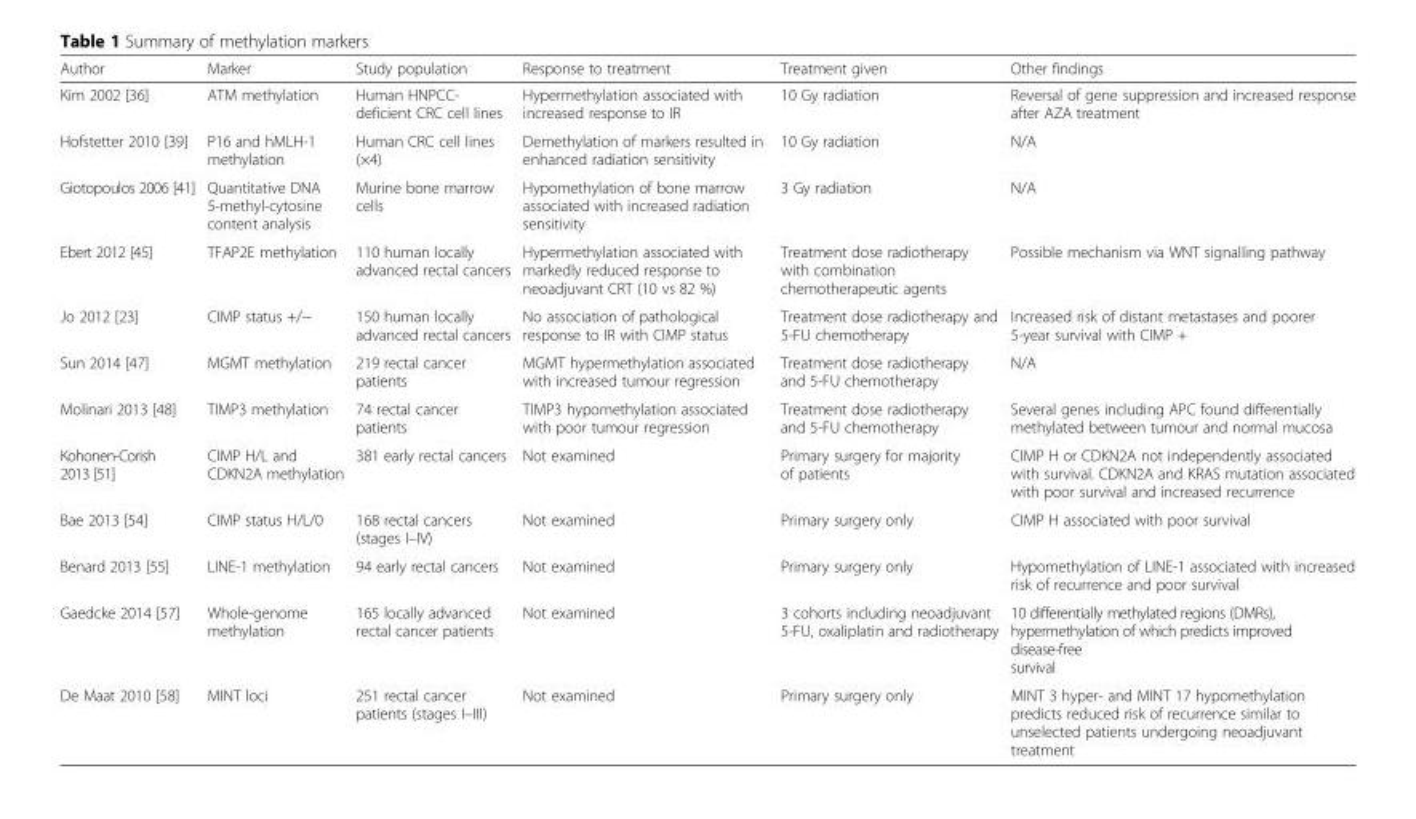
<table><thead><tr><td>Author</td><td>Marker</td><td>Study population</td><td>Response to treatment</td><td>Treatment given</td><td>Other findings</td></tr></thead><tbody><tr><td>Kim 2002 [36]</td><td>ATM methylation</td><td>Human HNPCC- deficient CRC cell lines</td><td>Hypermethylation associated with increased response to IR</td><td>10 Gy radiation</td><td>Reversal of gene suppression and increased response after AZA treatment</td></tr><tr><td>Hofstetter 2010 [39]</td><td>P16 and hMLH-1 methylation</td><td>Human CRC cell lines (×4)</td><td>Demethylation of markers resulted in enhanced radiation sensitivity</td><td>10 Gy radiation</td><td>N/A</td></tr><tr><td>Giotopoulos 2006 [41]</td><td>Quantitative DNA 5-methyl-cytosine content analysis</td><td>Murine bone marrow cells</td><td>Hypomethylation of bone marrow associated with increased radiation sensitivity</td><td>3 Gy radiation</td><td>N/A</td></tr><tr><td>Ebert 2012 [45]</td><td>TFAP2E methylation</td><td>110 human locally advanced rectal cancers</td><td>Hypermethylation associated with markedly reduced response to neoadjuvant CRT (10 vs 82 %)</td><td>Treatment dose radiotherapy with combination chemotherapeutic agents</td><td>Possible mechanism via WNT signalling pathway</td></tr><tr><td>Jo 2012 [23]</td><td>CIMP status +/−</td><td>150 human locally advanced rectal cancers</td><td>No association of pathological response to IR with CIMP status</td><td>Treatment dose radiotherapy and 5-FU chemotherapy</td><td>Increased risk of distant metastases and poorer 5-year survival with CIMP +</td></tr><tr><td>Sun 2014 [47]</td><td>MGMT methylation</td><td>219 rectal cancer patients</td><td>MGMT hypermethylation associated with increased tumour regression</td><td>Treatment dose radiotherapy and 5-FU chemotherapy</td><td>N/A</td></tr><tr><td>Molinari 2013 [48]</td><td>TIMP3 methylation</td><td>74 rectal cancer patients</td><td>TIMP3 hypomethylation associated with poor tumour regression</td><td>Treatment dose radiotherapy and 5-FU chemotherapy</td><td>Several genes including APC found differentially methylated between tumour and normal mucosa</td></tr><tr><td>Kohonen-Corish 2013 [51]</td><td>CIMP H/L and CDKN2A methylation</td><td>381 early rectal cancers</td><td>Not examined</td><td>Primary surgery for majority of patients</td><td>CIMP H or CDKN2A not independently associated with survival. CDKN2A and KRAS mutation associated with poor survival and increased recurrence</td></tr><tr><td>Bae 2013 [54]</td><td>CIMP status H/L/0</td><td>168 rectal cancers (stages I–IV)</td><td>Not examined</td><td>Primary surgery only</td><td>CIMP H associated with poor survival</td></tr><tr><td>Benard 2013 [55]</td><td>LINE-1 methylation</td><td>94 early rectal cancers</td><td>Not examined</td><td>Primary surgery only</td><td>Hypomethylation of LINE-1 associated with increased risk of recurrence and poor survival</td></tr><tr><td>Gaedcke 2014 [57]</td><td>Whole-genome methylation</td><td>165 locally advanced rectal cancer patients</td><td>Not examined</td><td>3 cohorts including neoadjuvant 5-FU, oxaliplatin and radiotherapy</td><td>10 differentially methylated regions (DMRs), hypermethylation of which predicts improved disease-free survival</td></tr><tr><td>De Maat 2010 [58]</td><td>MINT loci</td><td>251 rectal cancer patients (stages I–III)</td><td>Not examined</td><td>Primary surgery only</td><td>MINT 3 hyper- and MINT 17 hypomethylation predicts reduced risk of recurrence similar to unselected patients undergoing neoadjuvant treatment</td></tr></tbody></table>